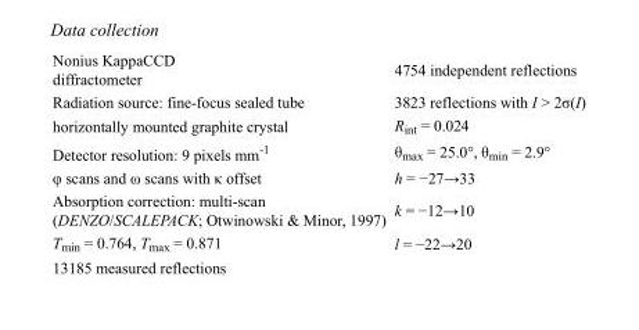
<table><tbody><tr><td>Nonius KappaCCD diffractometer</td><td>4754 independent reflections</td></tr><tr><td>Radiation source: fine-focus sealed tube</td><td>3823 reflections with I &gt; 2σ(I)</td></tr><tr><td>horizontally mounted graphite crystal</td><td>R<sub>int</sub> = 0.024</td></tr><tr><td>Detector resolution: 9 pixels mm<sup>-1</sup></td><td>θ<sub>max</sub> = 25.0°, θ<sub>min</sub> = 2.9°</td></tr><tr><td>φ scans and ω scans with κ offset</td><td>h = −27→33</td></tr><tr><td>Absorption correction: multi-scan (DENZO/SCALEPACK; Otwinowski &amp; Minor, 1997)</td><td>k = −12→10</td></tr><tr><td>T<sub>min</sub> = 0.764, T<sub>max</sub> = 0.871</td><td>l = −22→20</td></tr><tr><td>13185 measured reflections</td><td></td></tr></tbody></table>